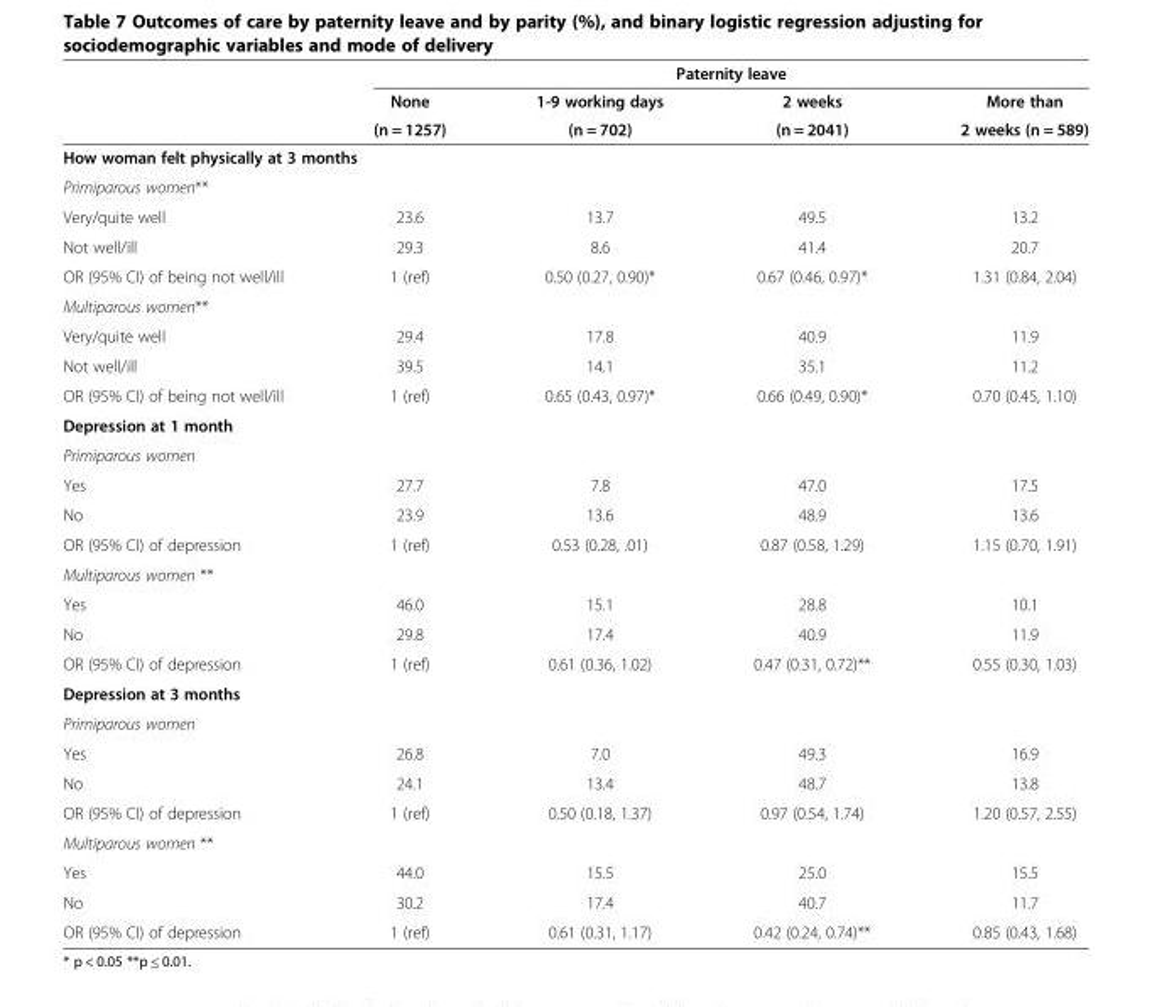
<table><thead><tr><td rowspan="3"></td><td colspan="4">Paternity leave</td></tr><tr><td rowspan="2">None (n = 1257)</td><td rowspan="2">1-9 working days (n = 702)</td><td rowspan="2">2 weeks (n = 2041)</td><td rowspan="2">More than 2 weeks (n = 589)</td></tr><tr></tr></thead><tbody><tr><td colspan="5">How woman felt physically at 3 months</td></tr><tr><td colspan="5">Primiparous women**</td></tr><tr><td>Very/quite well</td><td>23.6</td><td>13.7</td><td>49.5</td><td>13.2</td></tr><tr><td>Not well/ill</td><td>29.3</td><td>8.6</td><td>41.4</td><td>20.7</td></tr><tr><td>OR (95% CI) of being not well/ill</td><td>1 (ref)</td><td>0.50 (0.27, 0.90)*</td><td>0.67 (0.46, 0.97)*</td><td>1.31 (0.84, 2.04)</td></tr><tr><td colspan="5">Multiparous women**</td></tr><tr><td>Very/quite well</td><td>29.4</td><td>17.8</td><td>40.9</td><td>11.9</td></tr><tr><td>Not well/ill</td><td>39.5</td><td>14.1</td><td>35.1</td><td>11.2</td></tr><tr><td>OR (95% CI) of being not well/ill</td><td>1 (ref)</td><td>0.65 (0.43, 0.97)*</td><td>0.66 (0.49, 0.90)*</td><td>0.70 (0.45, 1.10)</td></tr><tr><td colspan="5">Depression at 1 month</td></tr><tr><td colspan="5">Primiparous women</td></tr><tr><td>Yes</td><td>27.7</td><td>7.8</td><td>47.0</td><td>17.5</td></tr><tr><td>No</td><td>23.9</td><td>13.6</td><td>48.9</td><td>13.6</td></tr><tr><td>OR (95% CI) of depression</td><td>1 (ref)</td><td>0.53 (0.28, .01)</td><td>0.87 (0.58, 1.29)</td><td>1.15 (0.70, 1.91)</td></tr><tr><td colspan="5">Multiparous women **</td></tr><tr><td>Yes</td><td>46.0</td><td>15.1</td><td>28.8</td><td>10.1</td></tr><tr><td>No</td><td>29.8</td><td>17.4</td><td>40.9</td><td>11.9</td></tr><tr><td>OR (95% CI) of depression</td><td>1 (ref)</td><td>0.61 (0.36, 1.02)</td><td>0.47 (0.31, 0.72)**</td><td>0.55 (0.30, 1.03)</td></tr><tr><td colspan="5">Depression at 3 months</td></tr><tr><td colspan="5">Primiparous women</td></tr><tr><td>Yes</td><td>26.8</td><td>7.0</td><td>49.3</td><td>16.9</td></tr><tr><td>No</td><td>24.1</td><td>13.4</td><td>48.7</td><td>13.8</td></tr><tr><td>OR (95% CI) of depression</td><td>1 (ref)</td><td>0.50 (0.18, 1.37)</td><td>0.97 (0.54, 1.74)</td><td>1.20 (0.57, 2.55)</td></tr><tr><td colspan="5">Multiparous women **</td></tr><tr><td>Yes</td><td>44.0</td><td>15.5</td><td>25.0</td><td>15.5</td></tr><tr><td>No</td><td>30.2</td><td>17.4</td><td>40.7</td><td>11.7</td></tr><tr><td>OR (95% CI) of depression</td><td>1 (ref)</td><td>0.61 (0.31, 1.17)</td><td>0.42 (0.24, 0.74)**</td><td>0.85 (0.43, 1.68)</td></tr></tbody></table>